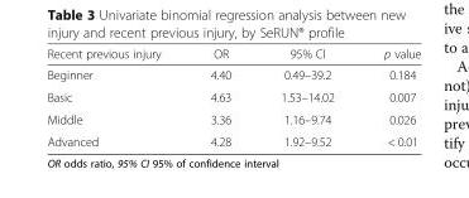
<table><thead><tr><td>Recent previous injury</td><td>OR</td><td>95% CI</td><td>p value</td></tr></thead><tbody><tr><td>Beginner</td><td>4.40</td><td>0.49–39.2</td><td>0.184</td></tr><tr><td>Basic</td><td>4.63</td><td>1.53–14.02</td><td>0.007</td></tr><tr><td>Middle</td><td>3.36</td><td>1.16–9.74</td><td>0.026</td></tr><tr><td>Advanced</td><td>4.28</td><td>1.92–9.52</td><td>&lt; 0.01</td></tr></tbody></table>